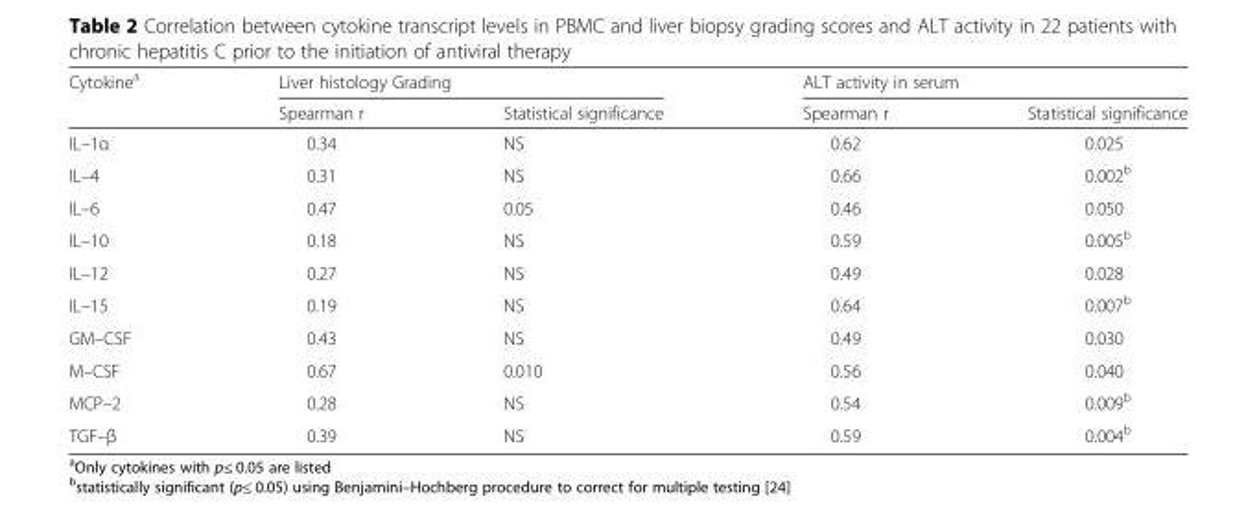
<table><thead><tr><td rowspan="2">Cytokine<sup>a</sup></td><td colspan="2">Liver histology Grading</td><td colspan="2">ALT activity in serum</td></tr><tr><td>Spearman r</td><td>Statistical significance</td><td>Spearman r</td><td>Statistical significance</td></tr></thead><tbody><tr><td>IL–1α</td><td>0.34</td><td>NS</td><td>0.62</td><td>0.025</td></tr><tr><td>IL–4</td><td>0.31</td><td>NS</td><td>0.66</td><td>0.002<sup>b</sup></td></tr><tr><td>IL–6</td><td>0.47</td><td>0.05</td><td>0.46</td><td>0.050</td></tr><tr><td>IL–10</td><td>0.18</td><td>NS</td><td>0.59</td><td>0.005<sup>b</sup></td></tr><tr><td>IL–12</td><td>0.27</td><td>NS</td><td>0.49</td><td>0.028</td></tr><tr><td>IL–15</td><td>0.19</td><td>NS</td><td>0.64</td><td>0.007<sup>b</sup></td></tr><tr><td>GM–CSF</td><td>0.43</td><td>NS</td><td>0.49</td><td>0.030</td></tr><tr><td>M–CSF</td><td>0.67</td><td>0.010</td><td>0.56</td><td>0.040</td></tr><tr><td>MCP–2</td><td>0.28</td><td>NS</td><td>0.54</td><td>0.009<sup>b</sup></td></tr><tr><td>TGF–β</td><td>0.39</td><td>NS</td><td>0.59</td><td>0.004<sup>b</sup></td></tr></tbody></table>